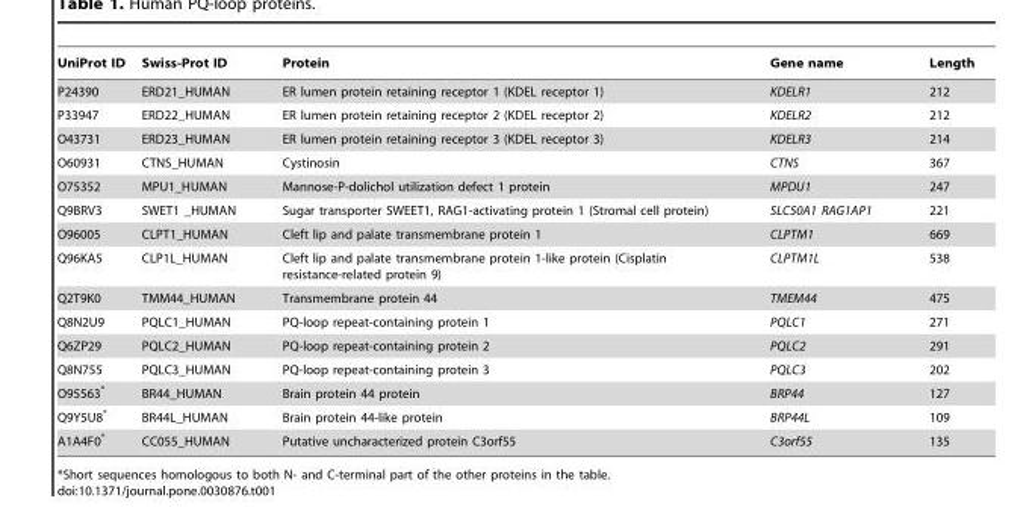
<table><thead><tr><td>UniProt ID</td><td>Swiss-Prot ID</td><td>Protein</td><td>Gene name</td><td>Length</td></tr></thead><tbody><tr><td>P24390</td><td>ERD21_HUMAN</td><td>ER lumen protein retaining receptor 1 (KDEL receptor 1)</td><td>KDELR1</td><td>212</td></tr><tr><td>P33947</td><td>ERD22_HUMAN</td><td>ER lumen protein retaining receptor 2 (KDEL receptor 2)</td><td>KDELR2</td><td>212</td></tr><tr><td>O43731</td><td>ERD23_HUMAN</td><td>ER lumen protein retaining receptor 3 (KDEL receptor 3)</td><td>KDELR3</td><td>214</td></tr><tr><td>O60931</td><td>CTNS_HUMAN</td><td>Cystinosin</td><td>CTNS</td><td>367</td></tr><tr><td>O75352</td><td>MPU1_HUMAN</td><td>Mannose-P-dolichol utilization defect 1 protein</td><td>MPDU1</td><td>247</td></tr><tr><td>Q9BRV3</td><td>SWET1 _HUMAN</td><td>Sugar transporter SWEET1, RAG1-activating protein 1 (Stromal cell protein)</td><td>SLC50A1 RAG1AP1</td><td>221</td></tr><tr><td>O96005</td><td>CLPT1_HUMAN</td><td>Cleft lip and palate transmembrane protein 1</td><td>CLPTM1</td><td>669</td></tr><tr><td>Q96KA5</td><td>CLP1L_HUMAN</td><td>Cleft lip and palate transmembrane protein 1-like protein (Cisplatin resistance-related protein 9)</td><td>CLPTM1L</td><td>538</td></tr><tr><td>Q2T9K0</td><td>TMM44_HUMAN</td><td>Transmembrane protein 44</td><td>TMEM44</td><td>475</td></tr><tr><td>Q8N2U9</td><td>PQLC1_HUMAN</td><td>PQ-loop repeat-containing protein 1</td><td>PQLC1</td><td>271</td></tr><tr><td>Q6ZP29</td><td>PQLC2_HUMAN</td><td>PQ-loop repeat-containing protein 2</td><td>PQLC2</td><td>291</td></tr><tr><td>Q8N755</td><td>PQLC3_HUMAN</td><td>PQ-loop repeat-containing protein 3</td><td>PQLC3</td><td>202</td></tr><tr><td>O95563*</td><td>BR44_HUMAN</td><td>Brain protein 44 protein</td><td>BRP44</td><td>127</td></tr><tr><td>Q9Y5U8*</td><td>BR44L_HUMAN</td><td>Brain protein 44-like protein</td><td>BRP44L</td><td>109</td></tr><tr><td>A1A4F0*</td><td>CC055_HUMAN</td><td>Putative uncharacterized protein C3orf55</td><td>C3orf55</td><td>135</td></tr></tbody></table>